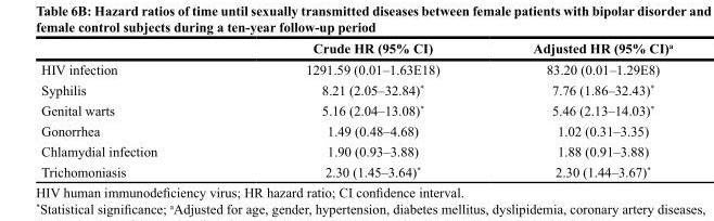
<table><thead><tr><td></td><td>Crude HR (95% CI)</td><td>Adjusted HR (95% CI)<sup>a</sup></td></tr></thead><tbody><tr><td>HIV infection</td><td>1291.59 (0.01–1.63E18)</td><td>83.20 (0.01–1.29E8)</td></tr><tr><td>Syphilis</td><td>8.21 (2.05–32.84)*</td><td>7.76 (1.86–32.43)*</td></tr><tr><td>Genital warts</td><td>5.16 (2.04–13.08)*</td><td>5.46 (2.13–14.03)*</td></tr><tr><td>Gonorrhea</td><td>1.49 (0.48–4.68)</td><td>1.02 (0.31–3.35)</td></tr><tr><td>Chlamydial infection</td><td>1.90 (0.93–3.88)</td><td>1.88 (0.91–3.88)</td></tr><tr><td>Trichomoniasis</td><td>2.30 (1.45–3.64)*</td><td>2.30 (1.44–3.67)*</td></tr></tbody></table>